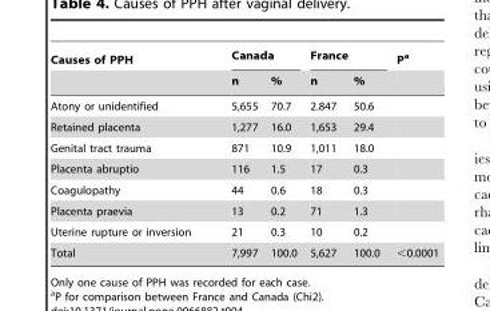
<table><thead><tr><td rowspan="2">Causes of PPH</td><td colspan="2">Canada</td><td colspan="2">France</td><td rowspan="2">P<sup>a</sup></td></tr><tr><td>n</td><td>%</td><td>n</td><td>%</td></tr></thead><tbody><tr><td>Atony or unidentified</td><td>5,655</td><td>70.7</td><td>2.847</td><td>50.6</td><td></td></tr><tr><td>Retained placenta</td><td>1,277</td><td>16.0</td><td>1,653</td><td>29.4</td><td></td></tr><tr><td>Genital tract trauma</td><td>871</td><td>10.9</td><td>1,011</td><td>18.0</td><td></td></tr><tr><td>Placenta abruptio</td><td>116</td><td>1.5</td><td>17</td><td>0.3</td><td></td></tr><tr><td>Coagulopathy</td><td>44</td><td>0.6</td><td>18</td><td>0.3</td><td></td></tr><tr><td>Placenta praevia</td><td>13</td><td>0.2</td><td>71</td><td>1.3</td><td></td></tr><tr><td>Uterine rupture or inversion</td><td>21</td><td>0.3</td><td>10</td><td>0.2</td><td></td></tr><tr><td>Total</td><td>7,997</td><td>100.0</td><td>5,627</td><td>100.0</td><td>&lt;0.0001</td></tr></tbody></table>